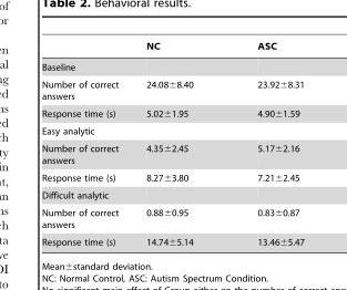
<table><thead><tr><td></td><td>NC</td><td>ASC</td></tr></thead><tbody><tr><td colspan="3">Baseline</td></tr><tr><td>Number of correct answers</td><td>24.08±8.40</td><td>23.92±8.31</td></tr><tr><td>Response time (s)</td><td>5.02±1.95</td><td>4.90±1.59</td></tr><tr><td colspan="3">Easy analytic</td></tr><tr><td>Number of correct answers</td><td>4.35±2.45</td><td>5.17±2.16</td></tr><tr><td>Response time (s)</td><td>8.27±3.80</td><td>7.21±2.45</td></tr><tr><td colspan="3">Difficult analytic</td></tr><tr><td>Number of correct answers</td><td>0.88±0.95</td><td>0.83±0.87</td></tr><tr><td>Response time (s)</td><td>14.74±5.14</td><td>13.46±5.47</td></tr></tbody></table>